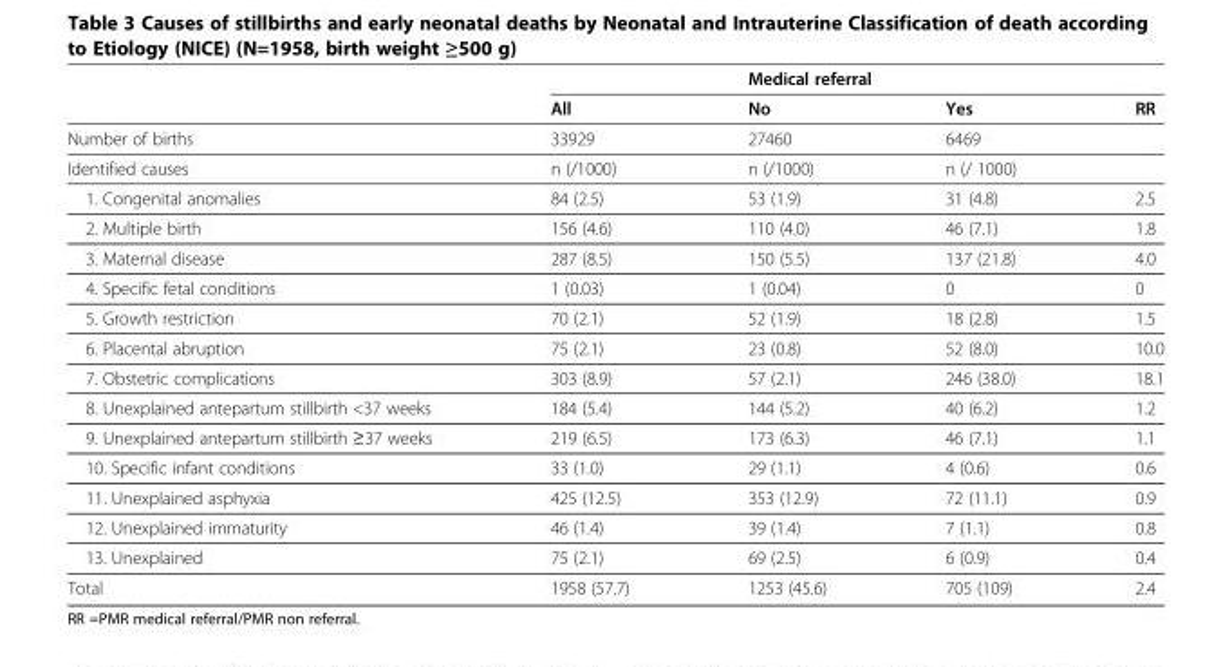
<table><thead><tr><td rowspan="2"></td><td rowspan="2">All</td><td colspan="2">Medical referral</td><td rowspan="2">RR</td></tr><tr><td>No</td><td>Yes</td></tr></thead><tbody><tr><td>Number of births</td><td>33929</td><td>27460</td><td>6469</td><td></td></tr><tr><td>Identified causes</td><td>n (/1000)</td><td>n (/1000)</td><td>n (/ 1000)</td><td></td></tr><tr><td>1. Congenital anomalies</td><td>84 (2.5)</td><td>53 (1.9)</td><td>31 (4.8)</td><td>2.5</td></tr><tr><td>2. Multiple birth</td><td>156 (4.6)</td><td>110 (4.0)</td><td>46 (7.1)</td><td>1.8</td></tr><tr><td>3. Maternal disease</td><td>287 (8.5)</td><td>150 (5.5)</td><td>137 (21.8)</td><td>4.0</td></tr><tr><td>4. Specific fetal conditions</td><td>1 (0.03)</td><td>1 (0.04)</td><td>0</td><td>0</td></tr><tr><td>5. Growth restriction</td><td>70 (2.1)</td><td>52 (1.9)</td><td>18 (2.8)</td><td>1.5</td></tr><tr><td>6. Placental abruption</td><td>75 (2.1)</td><td>23 (0.8)</td><td>52 (8.0)</td><td>10.0</td></tr><tr><td>7. Obstetric complications</td><td>303 (8.9)</td><td>57 (2.1)</td><td>246 (38.0)</td><td>18.1</td></tr><tr><td>8. Unexplained antepartum stillbirth &lt;37 weeks</td><td>184 (5.4)</td><td>144 (5.2)</td><td>40 (6.2)</td><td>1.2</td></tr><tr><td>9. Unexplained antepartum stillbirth ≥37 weeks</td><td>219 (6.5)</td><td>173 (6.3)</td><td>46 (7.1)</td><td>1.1</td></tr><tr><td>10. Specific infant conditions</td><td>33 (1.0)</td><td>29 (1.1)</td><td>4 (0.6)</td><td>0.6</td></tr><tr><td>11. Unexplained asphyxia</td><td>425 (12.5)</td><td>353 (12.9)</td><td>72 (11.1)</td><td>0.9</td></tr><tr><td>12. Unexplained immaturity</td><td>46 (1.4)</td><td>39 (1.4)</td><td>7 (1.1)</td><td>0.8</td></tr><tr><td>13. Unexplained</td><td>75 (2.1)</td><td>69 (2.5)</td><td>6 (0.9)</td><td>0.4</td></tr><tr><td>Total</td><td>1958 (57.7)</td><td>1253 (45.6)</td><td>705 (109)</td><td>2.4</td></tr></tbody></table>